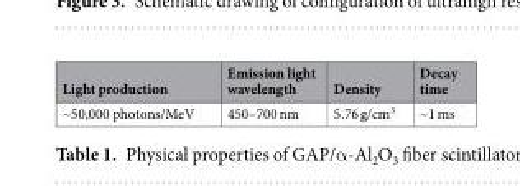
<table><thead><tr><td>Light production</td><td>Emission light wavelength</td><td>Density</td><td>Decay time</td></tr></thead><tbody><tr><td>~50,000 photons/MeV</td><td>450–700 nm</td><td>5.76 g/cm<sup>3</sup></td><td>~1 ms</td></tr></tbody></table>